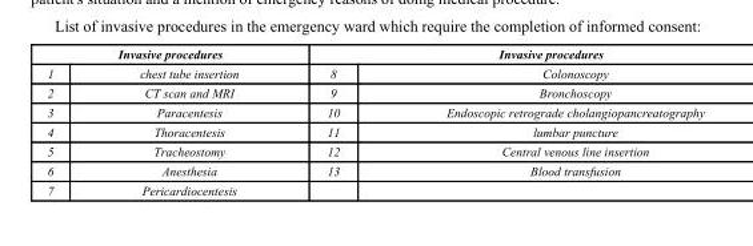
<table><thead><tr><td colspan="2">Invasive procedures</td><td colspan="2">Invasive procedures</td></tr><tr><td>1</td><td>chest tube insertion</td><td>8</td><td>Colonoscopy</td></tr></thead><tbody><tr><td>2</td><td>CT scan and MRI</td><td>9</td><td>Bronchoscopy</td></tr><tr><td>3</td><td>Paracentesis</td><td>10</td><td>Endoscopic retrograde cholangiopancreatography</td></tr><tr><td>4</td><td>Thoracentesis</td><td>11</td><td>lumbar puncture</td></tr><tr><td>5</td><td>Tracheostomy</td><td>12</td><td>Central venous line insertion</td></tr><tr><td>6</td><td>Anesthesia</td><td>13</td><td>Blood transfusion</td></tr><tr><td>7</td><td>Pericardiocentesis</td><td></td><td></td></tr></tbody></table>